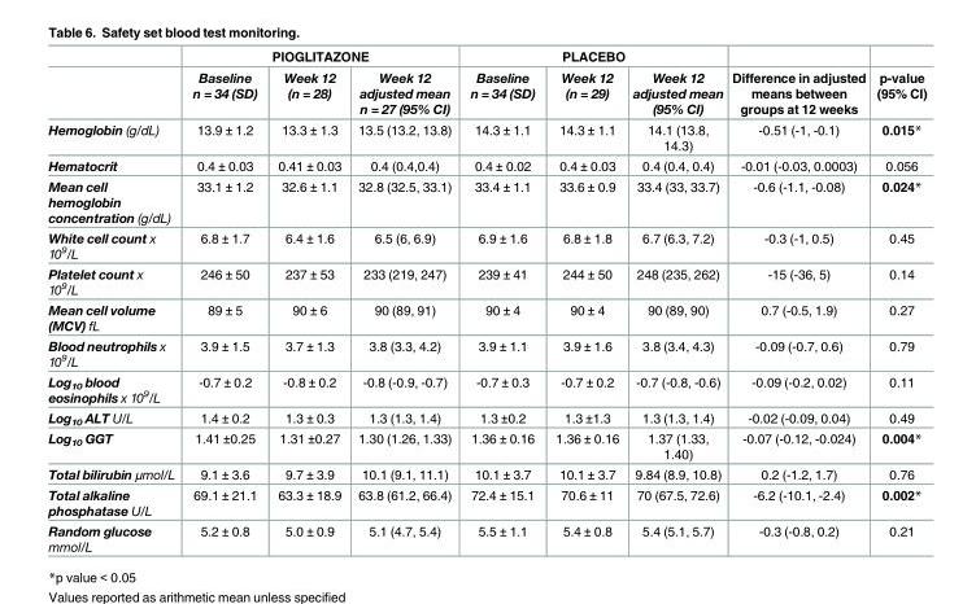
<table><thead><tr><td rowspan="2"></td><td colspan="3">PIOGLITAZONE</td><td colspan="3">PLACEBO</td><td rowspan="2">Difference in adjusted means between groups at 12 weeks</td><td rowspan="2">p-value (95% CI)</td></tr><tr><td>Baseline n = 34 (SD)</td><td>Week 12 (n = 28)</td><td>Week 12 adjusted mean n = 27 (95% CI)</td><td>Baseline n = 34 (SD)</td><td>Week 12 (n = 29)</td><td>Week 12 adjusted mean (95% CI)</td></tr></thead><tbody><tr><td>Hemoglobin (g/dL)</td><td>13.9 ± 1.2</td><td>13.3 ± 1.3</td><td>13.5 (13.2, 13.8)</td><td>14.3 ± 1.1</td><td>14.3 ± 1.1</td><td>14.1 (13.8, 14.3)</td><td>-0.51 (-1, -0.1)</td><td>0.015*</td></tr><tr><td>Hematocrit</td><td>0.4 ± 0.03</td><td>0.41 ± 0.03</td><td>0.4 (0.4,0.4)</td><td>0.4 ± 0.02</td><td>0.4 ± 0.03</td><td>0.4 (0.4, 0.4)</td><td>-0.01 (-0.03, 0.0003)</td><td>0.056</td></tr><tr><td>Mean cell hemoglobin concentration (g/dL)</td><td>33.1 ± 1.2</td><td>32.6 ± 1.1</td><td>32.8 (32.5, 33.1)</td><td>33.4 ± 1.1</td><td>33.6 ± 0.9</td><td>33.4 (33, 33.7)</td><td>-0.6 (-1.1, -0.08)</td><td>0.024*</td></tr><tr><td>White cell count x 10<sup>9</sup>/L</td><td>6.8 ± 1.7</td><td>6.4 ± 1.6</td><td>6.5 (6, 6.9)</td><td>6.9 ± 1.6</td><td>6.8 ± 1.8</td><td>6.7 (6.3, 7.2)</td><td>-0.3 (-1, 0.5)</td><td>0.45</td></tr><tr><td>Platelet count x 10<sup>9</sup>/L</td><td>246 ± 50</td><td>237 ± 53</td><td>233 (219, 247)</td><td>239 ± 41</td><td>244 ± 50</td><td>248 (235, 262)</td><td>-15 (-36, 5)</td><td>0.14</td></tr><tr><td>Mean cell volume (MCV) fL</td><td>89 ± 5</td><td>90 ± 6</td><td>90 (89, 91)</td><td>90 ± 4</td><td>90 ± 4</td><td>90 (89, 90)</td><td>0.7 (-0.5, 1.9)</td><td>0.27</td></tr><tr><td>Blood neutrophils x 10<sup>9</sup>/L</td><td>3.9 ± 1.5</td><td>3.7 ± 1.3</td><td>3.8 (3.3, 4.2)</td><td>3.9 ± 1.1</td><td>3.9 ± 1.6</td><td>3.8 (3.4, 4.3)</td><td>-0.09 (-0.7, 0.6)</td><td>0.79</td></tr><tr><td>Log<sub>10</sub> blood eosinophils x 10<sup>9</sup>/L</td><td>-0.7 ± 0.2</td><td>-0.8 ± 0.2</td><td>-0.8 (-0.9, -0.7)</td><td>-0.7 ± 0.3</td><td>-0.7 ± 0.2</td><td>-0.7 (-0.8, -0.6)</td><td>-0.09 (-0.2, 0.02)</td><td>0.11</td></tr><tr><td>Log<sub>10</sub> ALT U/L</td><td>1.4 ± 0.2</td><td>1.3 ± 0.3</td><td>1.3 (1.3, 1.4)</td><td>1.3 ±0.2</td><td>1.3 ±1.3</td><td>1.3 (1.3, 1.4)</td><td>-0.02 (-0.09, 0.04)</td><td>0.49</td></tr><tr><td>Log<sub>10</sub> GGT</td><td>1.41 ±0.25</td><td>1.31 ±0.27</td><td>1.30 (1.26, 1.33)</td><td>1.36 ± 0.16</td><td>1.36 ± 0.16</td><td>1.37 (1.33, 1.40)</td><td>-0.07 (-0.12, -0.024)</td><td>0.004*</td></tr><tr><td>Total bilirubin μmol/L</td><td>9.1 ± 3.6</td><td>9.7 ± 3.9</td><td>10.1 (9.1, 11.1)</td><td>10.1 ± 3.7</td><td>10.1 ± 3.7</td><td>9.84 (8.9, 10.8)</td><td>0.2 (-1.2, 1.7)</td><td>0.76</td></tr><tr><td>Total alkaline phosphatase U/L</td><td>69.1 ± 21.1</td><td>63.3 ± 18.9</td><td>63.8 (61.2, 66.4)</td><td>72.4 ± 15.1</td><td>70.6 ± 11</td><td>70 (67.5, 72.6)</td><td>-6.2 (-10.1, -2.4)</td><td>0.002*</td></tr><tr><td>Random glucose mmol/L</td><td>5.2 ± 0.8</td><td>5.0 ± 0.9</td><td>5.1 (4.7, 5.4)</td><td>5.5 ± 1.1</td><td>5.4 ± 0.8</td><td>5.4 (5.1, 5.7)</td><td>-0.3 (-0.8, 0.2)</td><td>0.21</td></tr></tbody></table>